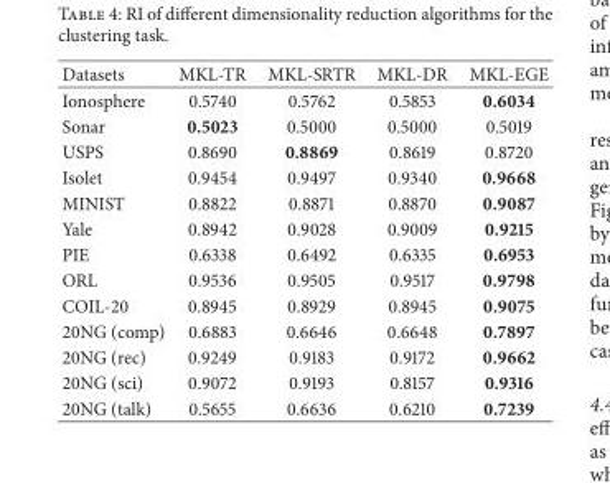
<table><thead><tr><td>Datasets</td><td>MKL-TR</td><td>MKL-SRTR</td><td>MKL-DR</td><td>MKL-EGE</td></tr></thead><tbody><tr><td>Ionosphere</td><td>0.5740</td><td>0.5762</td><td>0.5853</td><td>0.6034</td></tr><tr><td>Sonar</td><td>0.5023</td><td>0.5000</td><td>0.5000</td><td>0.5019</td></tr><tr><td>USPS</td><td>0.8690</td><td>0.8869</td><td>0.8619</td><td>0.8720</td></tr><tr><td>Isolet</td><td>0.9454</td><td>0.9497</td><td>0.9340</td><td>0.9668</td></tr><tr><td>MINIST</td><td>0.8822</td><td>0.8871</td><td>0.8870</td><td>0.9087</td></tr><tr><td>Yale</td><td>0.8942</td><td>0.9028</td><td>0.9009</td><td>0.9215</td></tr><tr><td>PIE</td><td>0.6338</td><td>0.6492</td><td>0.6335</td><td>0.6953</td></tr><tr><td>ORL</td><td>0.9536</td><td>0.9505</td><td>0.9517</td><td>0.9798</td></tr><tr><td>COIL-20</td><td>0.8945</td><td>0.8929</td><td>0.8945</td><td>0.9075</td></tr><tr><td>20NG (comp)</td><td>0.6883</td><td>0.6646</td><td>0.6648</td><td>0.7897</td></tr><tr><td>20NG (rec)</td><td>0.9249</td><td>0.9183</td><td>0.9172</td><td>0.9662</td></tr><tr><td>20NG (sci)</td><td>0.9072</td><td>0.9193</td><td>0.8157</td><td>0.9316</td></tr><tr><td>20NG (talk)</td><td>0.5655</td><td>0.6636</td><td>0.6210</td><td>0.7239</td></tr></tbody></table>